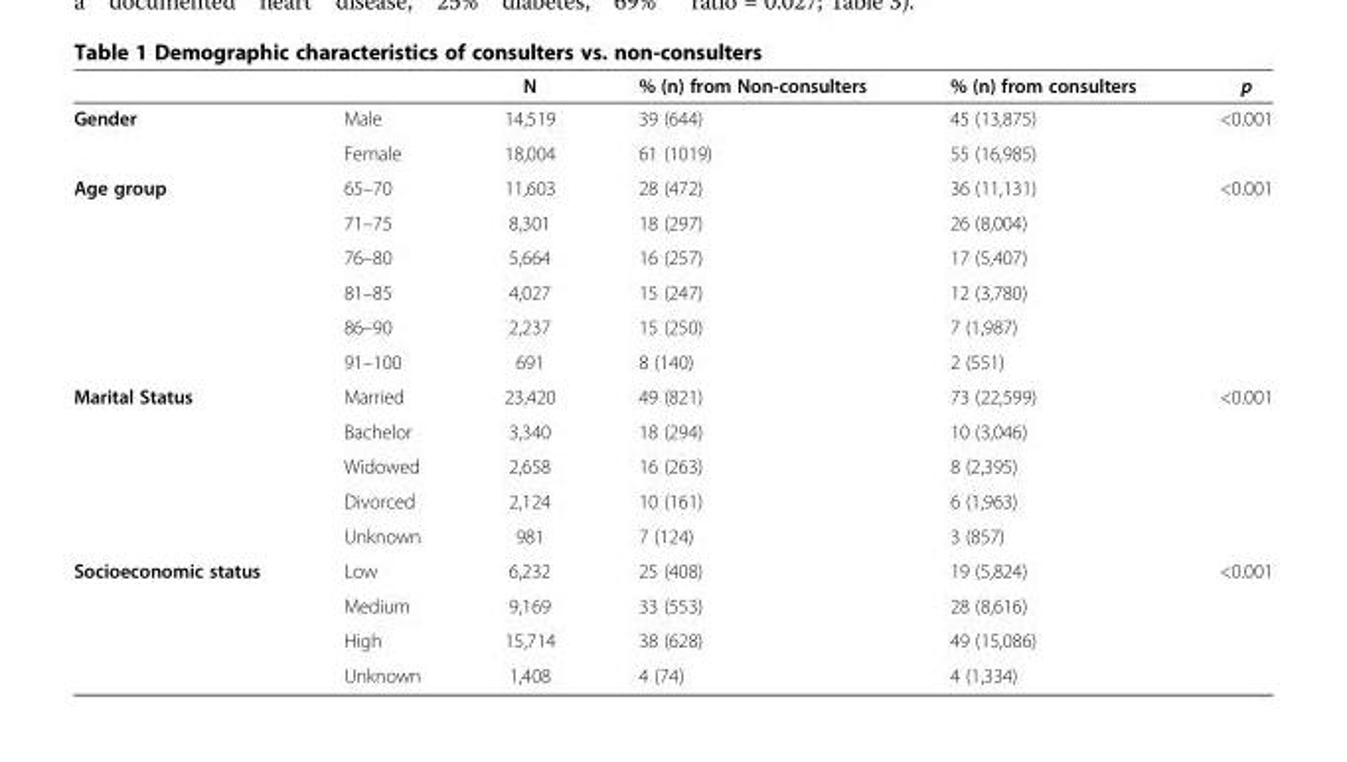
<table><thead><tr><td></td><td></td><td>N</td><td>% (n) from Non-consulters</td><td>% (n) from consulters</td><td>p</td></tr></thead><tbody><tr><td rowspan="2">Gender</td><td>Male</td><td>14,519</td><td>39 (644)</td><td>45 (13,875)</td><td rowspan="2">&lt;0.001</td></tr><tr><td>Female</td><td>18,004</td><td>61 (1019)</td><td>55 (16,985)</td></tr><tr><td rowspan="6">Age group</td><td>65–70</td><td>11,603</td><td>28 (472)</td><td>36 (11,131)</td><td rowspan="6">&lt;0.001</td></tr><tr><td>71–75</td><td>8,301</td><td>18 (297)</td><td>26 (8,004)</td></tr><tr><td>76–80</td><td>5,664</td><td>16 (257)</td><td>17 (5,407)</td></tr><tr><td>81–85</td><td>4,027</td><td>15 (247)</td><td>12 (3,780)</td></tr><tr><td>86–90</td><td>2,237</td><td>15 (250)</td><td>7 (1,987)</td></tr><tr><td>91–100</td><td>691</td><td>8 (140)</td><td>2 (551)</td></tr><tr><td rowspan="5">Marital Status</td><td>Married</td><td>23,420</td><td>49 (821)</td><td>73 (22,599)</td><td rowspan="5">&lt;0.001</td></tr><tr><td>Bachelor</td><td>3,340</td><td>18 (294)</td><td>10 (3,046)</td></tr><tr><td>Widowed</td><td>2,658</td><td>16 (263)</td><td>8 (2,395)</td></tr><tr><td>Divorced</td><td>2,124</td><td>10 (161)</td><td>6 (1,963)</td></tr><tr><td>Unknown</td><td>981</td><td>7 (124)</td><td>3 (857)</td></tr><tr><td rowspan="4">Socioeconomic status</td><td>Low</td><td>6,232</td><td>25 (408)</td><td>19 (5,824)</td><td rowspan="3">&lt;0.001</td></tr><tr><td>Medium</td><td>9,169</td><td>33 (553)</td><td>28 (8,616)</td></tr><tr><td>High</td><td>15,714</td><td>38 (628)</td><td>49 (15,086)</td></tr><tr><td>Unknown</td><td>1,408</td><td>4 (74)</td><td>4 (1,334)</td><td></td></tr></tbody></table>